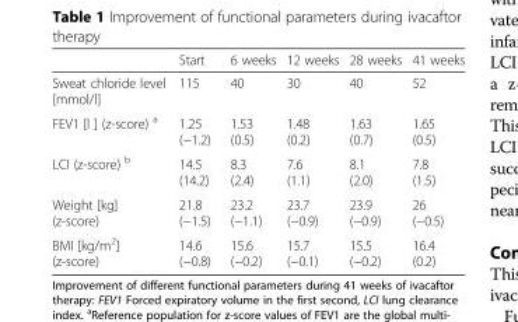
<table><thead><tr><td></td><td>Start</td><td>6 weeks</td><td>12 weeks</td><td>28 weeks</td><td>41 weeks</td></tr></thead><tbody><tr><td>Sweat chloride level [mmol/l]</td><td>115</td><td>40</td><td>30</td><td>40</td><td>52</td></tr><tr><td>FEV1 [l ] (z-score) <sup>a</sup></td><td>1.25 (−1.2)</td><td>1.53 (0.5)</td><td>1.48 (0.2)</td><td>1.63 (0.7)</td><td>1.65 (0.5)</td></tr><tr><td>LCI (z-score) <sup>b</sup></td><td>14.5 (14.2)</td><td>8.3 (2.4)</td><td>7.6 (1.1)</td><td>8.1 (2.0)</td><td>7.8 (1.5)</td></tr><tr><td>Weight [kg] (z-score)</td><td>21.8 (−1.5)</td><td>23.2 (−1.1)</td><td>23.7 (−0.9)</td><td>23.9 (−0.9)</td><td>26 (−0.5)</td></tr><tr><td>BMI [kg/m<sup>2</sup>] (z-score)</td><td>14.6 (−0.8)</td><td>15.6 (−0.2)</td><td>15.7 (−0.1)</td><td>15.5 (−0.2)</td><td>16.4 (0.2)</td></tr></tbody></table>